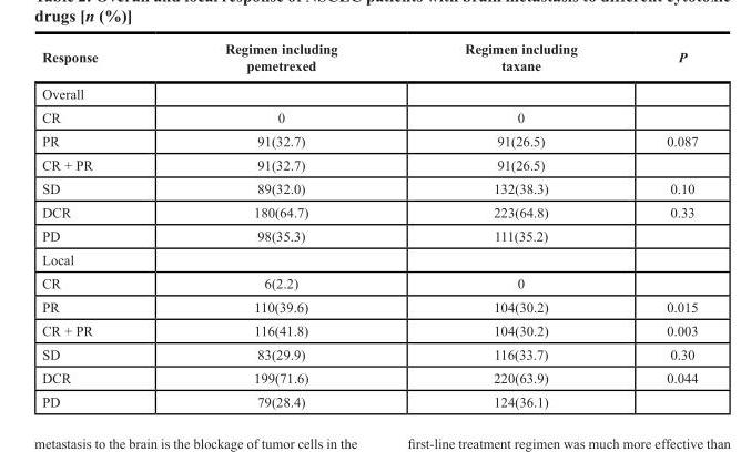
<table><thead><tr><td>Response</td><td>Regimen including pemetrexed</td><td>Regimen including taxane</td><td>P</td></tr></thead><tbody><tr><td colspan="4">Overall</td></tr><tr><td>CR</td><td>0</td><td>0</td><td></td></tr><tr><td>PR</td><td>91(32.7)</td><td>91(26.5)</td><td>0.087</td></tr><tr><td>CR + PR</td><td>91(32.7)</td><td>91(26.5)</td><td></td></tr><tr><td>SD</td><td>89(32.0)</td><td>132(38.3)</td><td>0.10</td></tr><tr><td>DCR</td><td>180(64.7)</td><td>223(64.8)</td><td>0.33</td></tr><tr><td>PD</td><td>98(35.3)</td><td>111(35.2)</td><td></td></tr><tr><td colspan="4">Local</td></tr><tr><td>CR</td><td>6(2.2)</td><td>0</td><td></td></tr><tr><td>PR</td><td>110(39.6)</td><td>104(30.2)</td><td>0.015</td></tr><tr><td>CR + PR</td><td>116(41.8)</td><td>104(30.2)</td><td>0.003</td></tr><tr><td>SD</td><td>83(29.9)</td><td>116(33.7)</td><td>0.30</td></tr><tr><td>DCR</td><td>199(71.6)</td><td>220(63.9)</td><td>0.044</td></tr><tr><td>PD</td><td>79(28.4)</td><td>124(36.1)</td><td></td></tr></tbody></table>